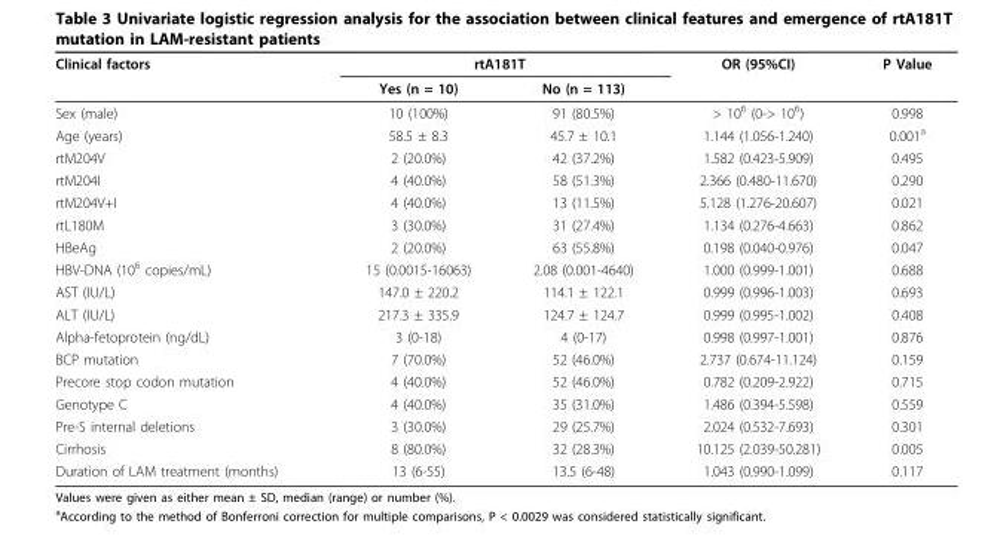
<table><thead><tr><td rowspan="2">Clinical factors</td><td colspan="2">rtA181T</td><td rowspan="2">OR (95%CI)</td><td rowspan="2">P Value</td></tr><tr><td>Yes (n = 10)</td><td>No (n = 113)</td></tr></thead><tbody><tr><td>Sex (male)</td><td>10 (100%)</td><td>91 (80.5%)</td><td>&gt; 10<sup>6</sup> (0-&gt; 10<sup>6</sup>)</td><td>0.998</td></tr><tr><td>Age (years)</td><td>58.5 ± 8.3</td><td>45.7 ± 10.1</td><td>1.144 (1.056-1.240)</td><td>0.001<sup>a</sup></td></tr><tr><td>rtM204V</td><td>2 (20.0%)</td><td>42 (37.2%)</td><td>1.582 (0.423-5.909)</td><td>0.495</td></tr><tr><td>rtM204I</td><td>4 (40.0%)</td><td>58 (51.3%)</td><td>2.366 (0.480-11.670)</td><td>0.290</td></tr><tr><td>rtM204V+I</td><td>4 (40.0%)</td><td>13 (11.5%)</td><td>5.128 (1.276-20.607)</td><td>0.021</td></tr><tr><td>rtL180M</td><td>3 (30.0%)</td><td>31 (27.4%)</td><td>1.134 (0.276-4.663)</td><td>0.862</td></tr><tr><td>HBeAg</td><td>2 (20.0%)</td><td>63 (55.8%)</td><td>0.198 (0.040-0.976)</td><td>0.047</td></tr><tr><td>HBV-DNA (10<sup>6</sup> copies/mL)</td><td>15 (0.0015-16063)</td><td>2.08 (0.001-4640)</td><td>1.000 (0.999-1.001)</td><td>0.688</td></tr><tr><td>AST (IU/L)</td><td>147.0 ± 220.2</td><td>114.1 ± 122.1</td><td>0.999 (0.996-1.003)</td><td>0.693</td></tr><tr><td>ALT (IU/L)</td><td>217.3 ± 335.9</td><td>124.7 ± 124.7</td><td>0.999 (0.995-1.002)</td><td>0.408</td></tr><tr><td>Alpha-fetoprotein (ng/dL)</td><td>3 (0-18)</td><td>4 (0-17)</td><td>0.998 (0.997-1.001)</td><td>0.876</td></tr><tr><td>BCP mutation</td><td>7 (70.0%)</td><td>52 (46.0%)</td><td>2.737 (0.674-11.124)</td><td>0.159</td></tr><tr><td>Precore stop codon mutation</td><td>4 (40.0%)</td><td>52 (46.0%)</td><td>0.782 (0.209-2.922)</td><td>0.715</td></tr><tr><td>Genotype C</td><td>4 (40.0%)</td><td>35 (31.0%)</td><td>1.486 (0.394-5.598)</td><td>0.559</td></tr><tr><td>Pre-S internal deletions</td><td>3 (30.0%)</td><td>29 (25.7%)</td><td>2.024 (0.532-7.693)</td><td>0.301</td></tr><tr><td>Cirrhosis</td><td>8 (80.0%)</td><td>32 (28.3%)</td><td>10.125 (2.039-50.281)</td><td>0.005</td></tr><tr><td>Duration of LAM treatment (months)</td><td>13 (6-55)</td><td>13.5 (6-48)</td><td>1.043 (0.990-1.099)</td><td>0.117</td></tr></tbody></table>